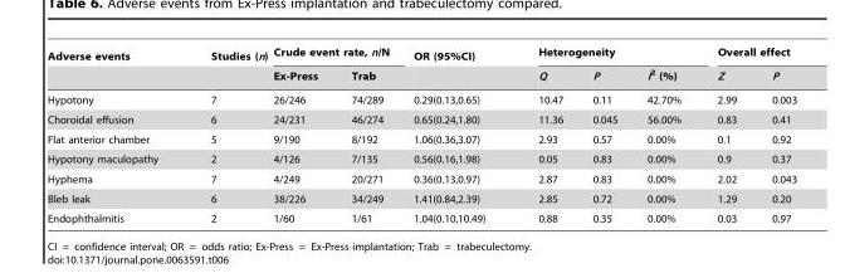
<table><thead><tr><td rowspan="2">Adverse events</td><td rowspan="2">Studies (n)</td><td colspan="2">Crude event rate, n/N</td><td rowspan="2">OR (95%CI)</td><td colspan="3">Heterogeneity</td><td colspan="2">Overall effect</td></tr><tr><td>Ex-Press</td><td>Trab</td><td>Q</td><td>P</td><td>I<sup>2</sup> (%)</td><td>Z</td><td>P</td></tr></thead><tbody><tr><td>Hypotony</td><td>7</td><td>26/246</td><td>74/289</td><td>0.29(0.13,0.65)</td><td>10.47</td><td>0.11</td><td>42.70%</td><td>2.99</td><td>0.003</td></tr><tr><td>Choroidal effusion</td><td>6</td><td>24/231</td><td>46/274</td><td>0.65(0.24,1.80)</td><td>11.36</td><td>0.045</td><td>56.00%</td><td>0.83</td><td>0.41</td></tr><tr><td>Flat anterior chamber</td><td>5</td><td>9/190</td><td>8/192</td><td>1.06(0.36,3.07)</td><td>2.93</td><td>0.57</td><td>0.00%</td><td>0.1</td><td>0.92</td></tr><tr><td>Hypotony maculopathy</td><td>2</td><td>4/126</td><td>7/135</td><td>0.56(0.16,1.98)</td><td>0.05</td><td>0.83</td><td>0.00%</td><td>0.9</td><td>0.37</td></tr><tr><td>Hyphema</td><td>7</td><td>4/249</td><td>20/271</td><td>0.36(0.13,0.97)</td><td>2.87</td><td>0.83</td><td>0.00%</td><td>2.02</td><td>0.043</td></tr><tr><td>Bleb leak</td><td>6</td><td>38/226</td><td>34/249</td><td>1.41(0.84,2.39)</td><td>2.85</td><td>0.72</td><td>0.00%</td><td>1.29</td><td>0.20</td></tr><tr><td>Endophthalmitis</td><td>2</td><td>1/60</td><td>1/61</td><td>1.04(0.10,10.49)</td><td>0.88</td><td>0.35</td><td>0.00%</td><td>0.03</td><td>0.97</td></tr></tbody></table>